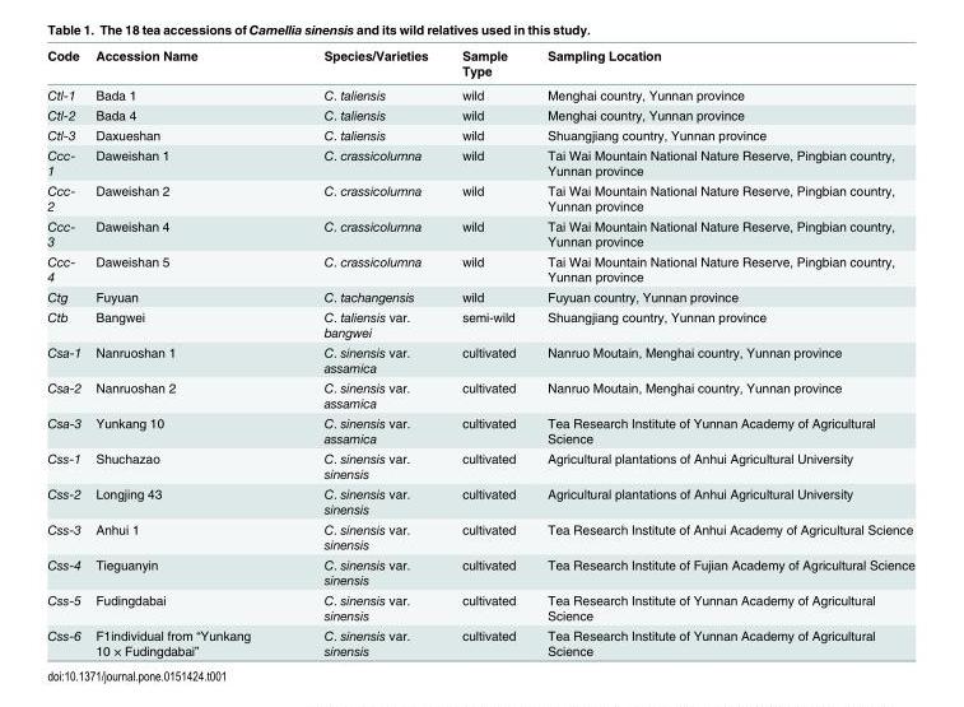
<table><thead><tr><td>Code</td><td>Accession Name</td><td>Species/Varieties</td><td>Sample Type</td><td>Sampling Location</td></tr></thead><tbody><tr><td>Ctl-1</td><td>Bada 1</td><td>C. taliensis</td><td>wild</td><td>Menghai country, Yunnan province</td></tr><tr><td>Ctl-2</td><td>Bada 4</td><td>C. taliensis</td><td>wild</td><td>Menghai country, Yunnan province</td></tr><tr><td>Ctl-3</td><td>Daxueshan</td><td>C. taliensis</td><td>wild</td><td>Shuangjiang country, Yunnan province</td></tr><tr><td>Ccc- 1</td><td>Daweishan 1</td><td>C. crassicolumna</td><td>wild</td><td>Tai Wai Mountain National Nature Reserve, Pingbian country, Yunnan province</td></tr><tr><td>Ccc- 2</td><td>Daweishan 2</td><td>C. crassicolumna</td><td>wild</td><td>Tai Wai Mountain National Nature Reserve, Pingbian country, Yunnan province</td></tr><tr><td>Ccc- 3</td><td>Daweishan 4</td><td>C. crassicolumna</td><td>wild</td><td>Tai Wai Mountain National Nature Reserve, Pingbian country, Yunnan province</td></tr><tr><td>Ccc- 4</td><td>Daweishan 5</td><td>C. crassicolumna</td><td>wild</td><td>Tai Wai Mountain National Nature Reserve, Pingbian country, Yunnan province</td></tr><tr><td>Ctg</td><td>Fuyuan</td><td>C. tachangensis</td><td>wild</td><td>Fuyuan country, Yunnan province</td></tr><tr><td>Ctb</td><td>Bangwei</td><td>C. taliensis var. bangwei</td><td>semi-wild</td><td>Shuangjiang country, Yunnan province</td></tr><tr><td>Csa-1</td><td>Nanruoshan 1</td><td>C. sinensis var. assamica</td><td>cultivated</td><td>Nanruo Moutain, Menghai country, Yunnan province</td></tr><tr><td>Csa-2</td><td>Nanruoshan 2</td><td>C. sinensis var. assamica</td><td>cultivated</td><td>Nanruo Moutain, Menghai country, Yunnan province</td></tr><tr><td>Csa-3</td><td>Yunkang 10</td><td>C. sinensis var. assamica</td><td>cultivated</td><td>Tea Research Institute of Yunnan Academy of Agricultural Science</td></tr><tr><td>Css-1</td><td>Shuchazao</td><td>C. sinensis var. sinensis</td><td>cultivated</td><td>Agricultural plantations of Anhui Agricultural University</td></tr><tr><td>Css-2</td><td>Longjing 43</td><td>C. sinensis var. sinensis</td><td>cultivated</td><td>Agricultural plantations of Anhui Agricultural University</td></tr><tr><td>Css-3</td><td>Anhui 1</td><td>C. sinensis var. sinensis</td><td>cultivated</td><td>Tea Research Institute of Anhui Academy of Agricultural Science</td></tr><tr><td>Css-4</td><td>Tieguanyin</td><td>C. sinensis var. sinensis</td><td>cultivated</td><td>Tea Research Institute of Fujian Academy of Agricultural Science</td></tr><tr><td>Css-5</td><td>Fudingdabai</td><td>C. sinensis var. sinensis</td><td>cultivated</td><td>Tea Research Institute of Yunnan Academy of Agricultural Science</td></tr><tr><td>Css-6</td><td>F1individual from “Yunkang 10 × Fudingdabai”</td><td>C. sinensis var. sinensis</td><td>cultivated</td><td>Tea Research Institute of Yunnan Academy of Agricultural Science</td></tr></tbody></table>